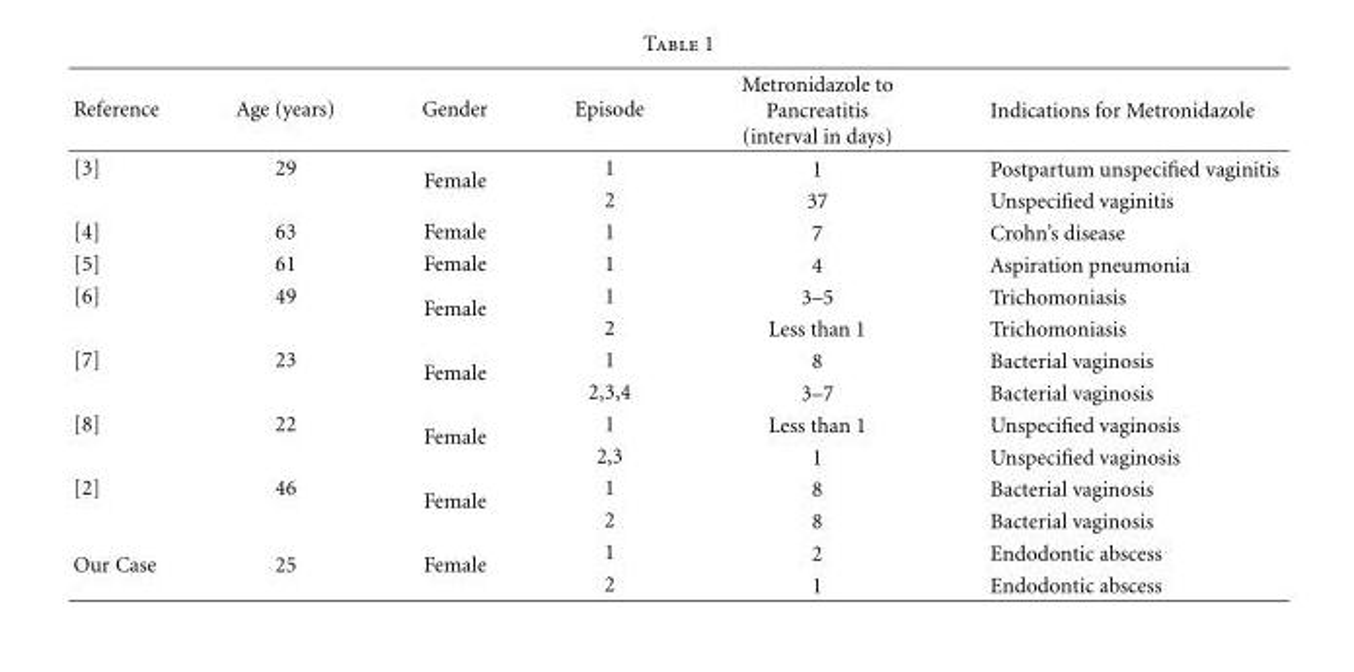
<table><thead><tr><td>Reference</td><td>Age (years)</td><td>Gender</td><td>Episode</td><td>Metronidazole to Pancreatitis (interval in days)</td><td>Indications for Metronidazole</td></tr></thead><tbody><tr><td rowspan="2">[3]</td><td>29</td><td rowspan="2">Female</td><td>1</td><td>1</td><td>Postpartum unspecified vaginitis</td></tr><tr><td></td><td>2</td><td>37</td><td>Unspecified vaginitis</td></tr><tr><td>[4]</td><td>63</td><td>Female</td><td>1</td><td>7</td><td>Crohn’s disease</td></tr><tr><td>[5]</td><td>61</td><td>Female</td><td>1</td><td>4</td><td>Aspiration pneumonia</td></tr><tr><td rowspan="2">[6]</td><td>49</td><td rowspan="2">Female</td><td>1</td><td>3–5</td><td>Trichomoniasis</td></tr><tr><td></td><td>2</td><td>Less than 1</td><td>Trichomoniasis</td></tr><tr><td rowspan="2">[7]</td><td>23</td><td rowspan="2">Female</td><td>1</td><td>8</td><td>Bacterial vaginosis</td></tr><tr><td></td><td>2,3,4</td><td>3–7</td><td>Bacterial vaginosis</td></tr><tr><td rowspan="2">[8]</td><td>22</td><td rowspan="2">Female</td><td>1</td><td>Less than 1</td><td>Unspecified vaginosis</td></tr><tr><td></td><td>2,3</td><td>1</td><td>Unspecified vaginosis</td></tr><tr><td rowspan="2">[2]</td><td>46</td><td rowspan="2">Female</td><td>1</td><td>8</td><td>Bacterial vaginosis</td></tr><tr><td></td><td>2</td><td>8</td><td>Bacterial vaginosis</td></tr><tr><td rowspan="2">Our Case</td><td rowspan="2">25</td><td rowspan="2">Female</td><td>1</td><td>2</td><td>Endodontic abscess</td></tr><tr><td>2</td><td>1</td><td>Endodontic abscess</td></tr></tbody></table>